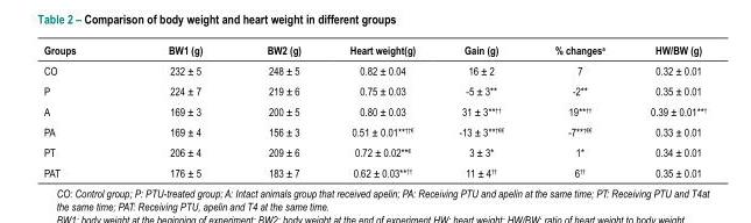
<table><thead><tr><td>Groups</td><td>BW1 (g)</td><td>BW2 (g)</td><td>Heart weight(g)</td><td>Gain (g)</td><td>% changesa</td><td>HW/BW (g)</td></tr></thead><tbody><tr><td>CO</td><td>232 ± 5</td><td>248 ± 5</td><td>0.82 ± 0.04</td><td>16 ± 2</td><td>7</td><td>0.32 ± 0.01</td></tr><tr><td>P</td><td>224 ± 7</td><td>219 ± 6</td><td>0.75 ± 0.03</td><td>-5 ± 3**</td><td>-2**</td><td>0.35 ± 0.01</td></tr><tr><td>A</td><td>169 ± 3</td><td>200 ± 5</td><td>0.80 ± 0.03</td><td>31 ± 3**††</td><td>19**††</td><td>0.39 ± 0.01**†</td></tr><tr><td>PA</td><td>169 ± 4</td><td>156 ± 3</td><td>0.51 ± 0.01**††€</td><td>-13 ± 3**†€€</td><td><sub>-</sub>7**†€€</td><td>0.33 ± 0.01</td></tr><tr><td>PT</td><td>206 ± 4</td><td>209 ± 6</td><td>0.72 ± 0.02**€</td><td>3 ± 3*</td><td>1*</td><td>0.34 ± 0.01</td></tr><tr><td>PAT</td><td>176 ± 5</td><td>183 ± 7</td><td>0.62 ± 0.03**††</td><td>11 ± 4††</td><td>6††</td><td>0.35 ± 0.01</td></tr></tbody></table>